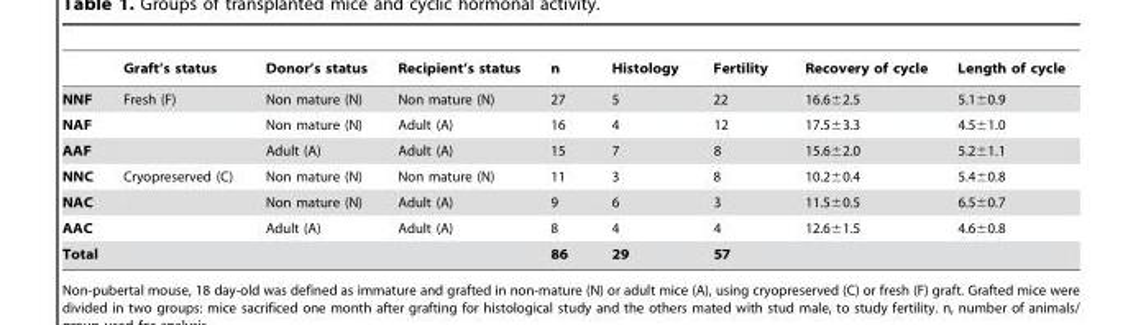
<table><thead><tr><td></td><td>Graft’s status</td><td>Donor’s status</td><td>Recipient’s status</td><td>n</td><td>Histology</td><td>Fertility</td><td>Recovery of cycle</td><td>Length of cycle</td></tr></thead><tbody><tr><td>NNF</td><td>Fresh (F)</td><td>Non mature (N)</td><td>Non mature (N)</td><td>27</td><td>5</td><td>22</td><td>16.6±2.5</td><td>5.1±0.9</td></tr><tr><td>NAF</td><td></td><td>Non mature (N)</td><td>Adult (A)</td><td>16</td><td>4</td><td>12</td><td>17.5±3.3</td><td>4.5±1.0</td></tr><tr><td>AAF</td><td></td><td>Adult (A)</td><td>Adult (A)</td><td>15</td><td>7</td><td>8</td><td>15.6±2.0</td><td>5.2±1.1</td></tr><tr><td>NNC</td><td>Cryopreserved (C)</td><td>Non mature (N)</td><td>Non mature (N)</td><td>11</td><td>3</td><td>8</td><td>10.2±0.4</td><td>5.4±0.8</td></tr><tr><td>NAC</td><td></td><td>Non mature (N)</td><td>Adult (A)</td><td>9</td><td>6</td><td>3</td><td>11.5±0.5</td><td>6.5±0.7</td></tr><tr><td>AAC</td><td></td><td>Adult (A)</td><td>Adult (A)</td><td>8</td><td>4</td><td>4</td><td>12.6±1.5</td><td>4.6±0.8</td></tr><tr><td>Total</td><td></td><td></td><td></td><td>86</td><td>29</td><td>57</td><td></td><td></td></tr></tbody></table>